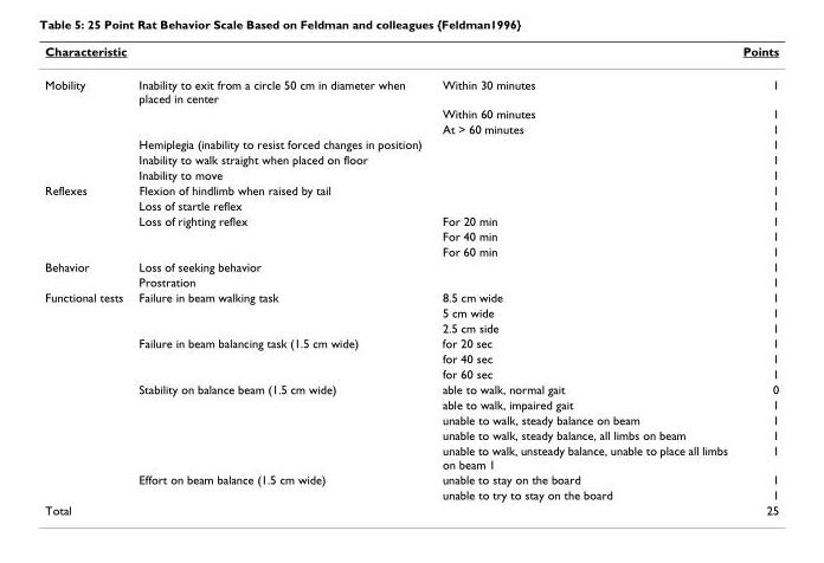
<table><thead><tr><td>Characteristic</td><td></td><td></td><td>Points</td></tr></thead><tbody><tr><td rowspan="6">Mobility</td><td>Inability to exit from a circle 50 cm in diameter when placed in center</td><td>Within 30 minutes</td><td>1</td></tr><tr><td></td><td>Within 60 minutes</td><td>1</td></tr><tr><td></td><td>At &gt; 60 minutes</td><td>1</td></tr><tr><td>Hemiplegia (inability to resist forced changes in position)</td><td></td><td>1</td></tr><tr><td>Inability to walk straight when placed on floor</td><td></td><td>1</td></tr><tr><td>Inability to move</td><td></td><td>1</td></tr><tr><td rowspan="5">Reflexes</td><td>Flexion of hindlimb when raised by tail</td><td></td><td>1</td></tr><tr><td>Loss of startle reflex</td><td></td><td>1</td></tr><tr><td>Loss of righting reflex</td><td>For 20 min</td><td>1</td></tr><tr><td></td><td>For 40 min</td><td>1</td></tr><tr><td></td><td>For 60 min</td><td>1</td></tr><tr><td rowspan="2">Behavior</td><td>Loss of seeking behavior</td><td></td><td>1</td></tr><tr><td>Prostration</td><td></td><td>1</td></tr><tr><td rowspan="13">Functional tests</td><td>Failure in beam walking task</td><td>8.5 cm wide</td><td>1</td></tr><tr><td></td><td>5 cm wide</td><td>1</td></tr><tr><td></td><td>2.5 cm side</td><td>1</td></tr><tr><td>Failure in beam balancing task (1.5 cm wide)</td><td>for 20 sec</td><td>1</td></tr><tr><td></td><td>for 40 sec</td><td>1</td></tr><tr><td></td><td>for 60 sec</td><td>1</td></tr><tr><td>Stability on balance beam (1.5 cm wide)</td><td>able to walk, normal gait</td><td>0</td></tr><tr><td></td><td>able to walk, impaired gait</td><td>1</td></tr><tr><td></td><td>unable to walk, steady balance on beam</td><td>1</td></tr><tr><td></td><td>unable to walk, steady balance, all limbs on beam</td><td>1</td></tr><tr><td></td><td>unable to walk, unsteady balance, unable to place all limbs on beam 1</td><td>1</td></tr><tr><td>Effort on beam balance (1.5 cm wide)</td><td>unable to stay on the board</td><td>1</td></tr><tr><td></td><td>unable to try to stay on the board</td><td>1</td></tr><tr><td>Total</td><td></td><td></td><td>25</td></tr></tbody></table>